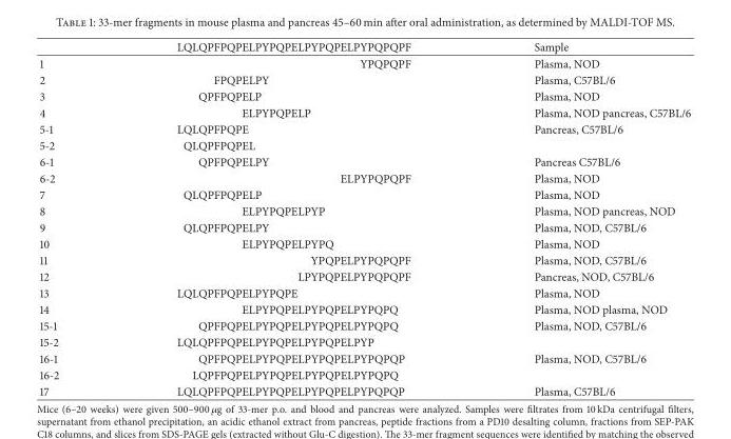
<table><thead><tr><td></td><td>LQLQPFPQPELPYPQPELPYPQPELPYPQPQPF</td><td>Sample</td></tr></thead><tbody><tr><td>1</td><td>YPQPQPF</td><td>Plasma, NOD</td></tr><tr><td>2</td><td>FPQPELPY</td><td>Plasma, C57BL/6</td></tr><tr><td>3</td><td>QPFPQPELP</td><td>Plasma, NOD</td></tr><tr><td>4</td><td>ELPYPQPELP</td><td>Plasma, NOD pancreas, C57BL/6</td></tr><tr><td>5-1</td><td>LQLQPFPQPE</td><td>Pancreas, C57BL/6</td></tr><tr><td>5-2</td><td>QLQPFPQPEL</td><td></td></tr><tr><td>6-1</td><td>QPFPQPELPY</td><td>Pancreas C57BL/6</td></tr><tr><td>6-2</td><td>ELPYPQPQPF</td><td>Plasma, NOD</td></tr><tr><td>7</td><td>QLQPFPQPELP</td><td>Plasma, NOD</td></tr><tr><td>8</td><td>ELPYPQPELPYP</td><td>Plasma, NOD pancreas, NOD</td></tr><tr><td>9</td><td>QLQPFPQPELPY</td><td>Plasma, NOD, C57BL/6</td></tr><tr><td>10</td><td>ELPYPQPELPYPQ</td><td>Plasma, NOD</td></tr><tr><td>11</td><td>YPQPELPYPQPQPF</td><td>Plasma, NOD, C57BL/6</td></tr><tr><td>12</td><td>LPYPQPELPYPQPQPF</td><td>Pancreas, NOD, C57BL/6</td></tr><tr><td>13</td><td>LQLQPFPQPELPYPQPE</td><td>Plasma, NOD</td></tr><tr><td>14</td><td>ELPYPQPELPYPQPELPYPQPQ</td><td>Plasma, NOD plasma, NOD</td></tr><tr><td>15-1</td><td>QPFPQPELPYPQPELPYPQPELPYPQPQ</td><td>Plasma, NOD, C57BL/6</td></tr><tr><td>15-2</td><td>LQLQPFPQPELPYPQPELPYPQPELPYP</td><td></td></tr><tr><td>16-1</td><td>QPFPQPELPYPQPELPYPQPELPYPQPQP</td><td>Plasma, NOD, C57BL/6</td></tr><tr><td>16-2</td><td>LQPFPQPELPYPQPELPYPQPELPYPQPQ</td><td></td></tr><tr><td>17</td><td>LQLQPFPQPELPYPQPELPYPQPELPYPQPQP</td><td>Plasma, C57BL/6</td></tr></tbody></table>